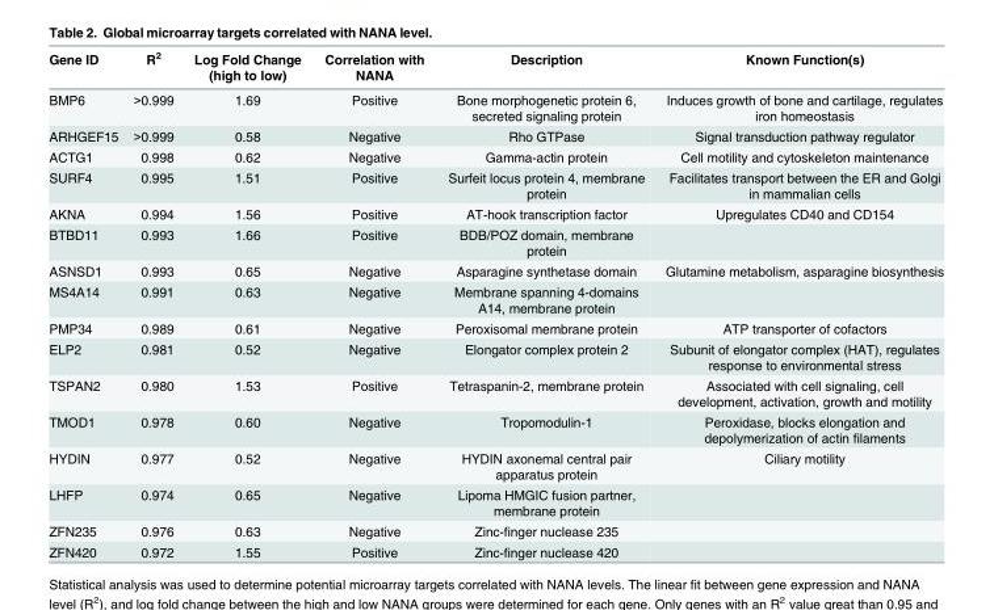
<table><thead><tr><td>Gene ID</td><td>R<sup>2</sup></td><td>Log Fold Change (high to low)</td><td>Correlation with NANA</td><td>Description</td><td>Known Function(s)</td></tr></thead><tbody><tr><td>BMP6</td><td>&gt;0.999</td><td>1.69</td><td>Positive</td><td>Bone morphogenetic protein 6, secreted signaling protein</td><td>Induces growth of bone and cartilage, regulates iron homeostasis</td></tr><tr><td>ARHGEF15</td><td>&gt;0.999</td><td>0.58</td><td>Negative</td><td>Rho GTPase</td><td>Signal transduction pathway regulator</td></tr><tr><td>ACTG1</td><td>0.998</td><td>0.62</td><td>Negative</td><td>Gamma-actin protein</td><td>Cell motility and cytoskeleton maintenance</td></tr><tr><td>SURF4</td><td>0.995</td><td>1.51</td><td>Positive</td><td>Surfeit locus protein 4, membrane protein</td><td>Facilitates transport between the ER and Golgi in mammalian cells</td></tr><tr><td>AKNA</td><td>0.994</td><td>1.56</td><td>Positive</td><td>AT-hook transcription factor</td><td>Upregulates CD40 and CD154</td></tr><tr><td>BTBD11</td><td>0.993</td><td>1.66</td><td>Positive</td><td>BDB/POZ domain, membrane protein</td><td></td></tr><tr><td>ASNSD1</td><td>0.993</td><td>0.65</td><td>Negative</td><td>Asparagine synthetase domain</td><td>Glutamine metabolism, asparagine biosynthesis</td></tr><tr><td>MS4A14</td><td>0.991</td><td>0.63</td><td>Negative</td><td>Membrane spanning 4-domains A14, membrane protein</td><td></td></tr><tr><td>PMP34</td><td>0.989</td><td>0.61</td><td>Negative</td><td>Peroxisomal membrane protein</td><td>ATP transporter of cofactors</td></tr><tr><td>ELP2</td><td>0.981</td><td>0.52</td><td>Negative</td><td>Elongator complex protein 2</td><td>Subunit of elongator complex (HAT), regulates response to environmental stress</td></tr><tr><td>TSPAN2</td><td>0.980</td><td>1.53</td><td>Positive</td><td>Tetraspanin-2, membrane protein</td><td>Associated with cell signaling, cell development, activation, growth and motility</td></tr><tr><td>TMOD1</td><td>0.978</td><td>0.60</td><td>Negative</td><td>Tropomodulin-1</td><td>Peroxidase, blocks elongation and depolymerization of actin filaments</td></tr><tr><td>HYDIN</td><td>0.977</td><td>0.52</td><td>Negative</td><td>HYDIN axonemal central pair apparatus protein</td><td>Ciliary motility</td></tr><tr><td>LHFP</td><td>0.974</td><td>0.65</td><td>Negative</td><td>Lipoma HMGIC fusion partner, membrane protein</td><td></td></tr><tr><td>ZFN235</td><td>0.976</td><td>0.63</td><td>Negative</td><td>Zinc-finger nuclease 235</td><td></td></tr><tr><td>ZFN420</td><td>0.972</td><td>1.55</td><td>Positive</td><td>Zinc-finger nuclease 420</td><td></td></tr></tbody></table>